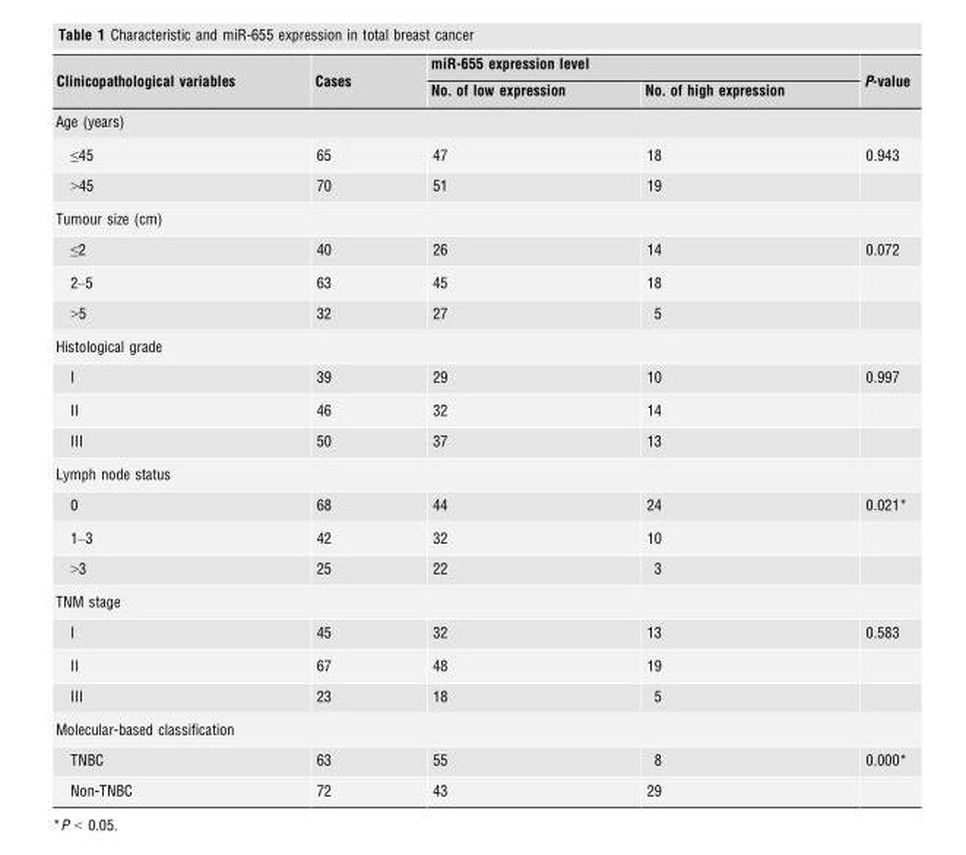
<table><thead><tr><td rowspan="2">Clinicopathological variables</td><td rowspan="2">Cases</td><td colspan="2">miR-655 expression level</td><td rowspan="2">P-value</td></tr><tr><td>No. of low expression</td><td>No. of high expression</td></tr></thead><tbody><tr><td colspan="5">Age (years)</td></tr><tr><td>≤45</td><td>65</td><td>47</td><td>18</td><td>0.943</td></tr><tr><td>&gt;45</td><td>70</td><td>51</td><td>19</td><td></td></tr><tr><td colspan="5">Tumour size (cm)</td></tr><tr><td>≤2</td><td>40</td><td>26</td><td>14</td><td>0.072</td></tr><tr><td>2–5</td><td>63</td><td>45</td><td>18</td><td></td></tr><tr><td>&gt;5</td><td>32</td><td>27</td><td>5</td><td></td></tr><tr><td colspan="5">Histological grade</td></tr><tr><td>I</td><td>39</td><td>29</td><td>10</td><td>0.997</td></tr><tr><td>II</td><td>46</td><td>32</td><td>14</td><td></td></tr><tr><td>III</td><td>50</td><td>37</td><td>13</td><td></td></tr><tr><td colspan="5">Lymph node status</td></tr><tr><td>0</td><td>68</td><td>44</td><td>24</td><td>0.021*</td></tr><tr><td>1–3</td><td>42</td><td>32</td><td>10</td><td></td></tr><tr><td>&gt;3</td><td>25</td><td>22</td><td>3</td><td></td></tr><tr><td colspan="5">TNM stage</td></tr><tr><td>I</td><td>45</td><td>32</td><td>13</td><td>0.583</td></tr><tr><td>II</td><td>67</td><td>48</td><td>19</td><td></td></tr><tr><td>III</td><td>23</td><td>18</td><td>5</td><td></td></tr><tr><td colspan="5">Molecular-based classification</td></tr><tr><td>TNBC</td><td>63</td><td>55</td><td>8</td><td>0.000*</td></tr><tr><td>Non-TNBC</td><td>72</td><td>43</td><td>29</td><td></td></tr></tbody></table>